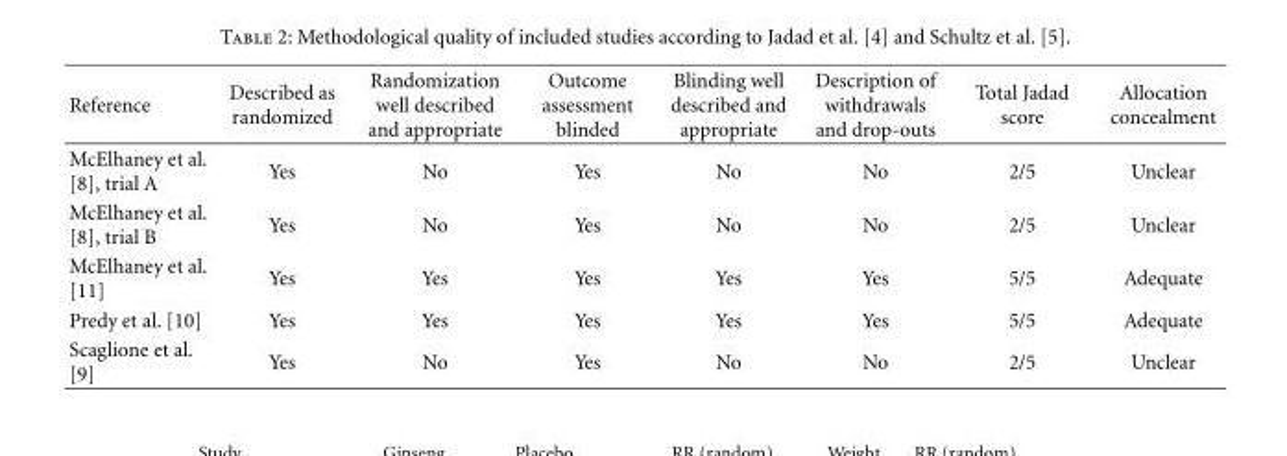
<table><thead><tr><td>Reference</td><td>Described as randomized</td><td>Randomization well described and appropriate</td><td>Outcome assessment blinded</td><td>Blinding well described and appropriate</td><td>Description of withdrawals and drop-outs</td><td>Total Jadad score</td><td>Allocation concealment</td></tr></thead><tbody><tr><td>McElhaney et al. [8], trial A</td><td>Yes</td><td>No</td><td>Yes</td><td>No</td><td>No</td><td>2/5</td><td>Unclear</td></tr><tr><td>McElhaney et al. [8], trial B</td><td>Yes</td><td>No</td><td>Yes</td><td>No</td><td>No</td><td>2/5</td><td>Unclear</td></tr><tr><td>McElhaney et al. [11]</td><td>Yes</td><td>Yes</td><td>Yes</td><td>Yes</td><td>Yes</td><td>5/5</td><td>Adequate</td></tr><tr><td>Predy et al. [10]</td><td>Yes</td><td>Yes</td><td>Yes</td><td>Yes</td><td>Yes</td><td>5/5</td><td>Adequate</td></tr><tr><td>Scaglione et al. [9]</td><td>Yes</td><td>No</td><td>Yes</td><td>No</td><td>No</td><td>2/5</td><td>Unclear</td></tr></tbody></table>